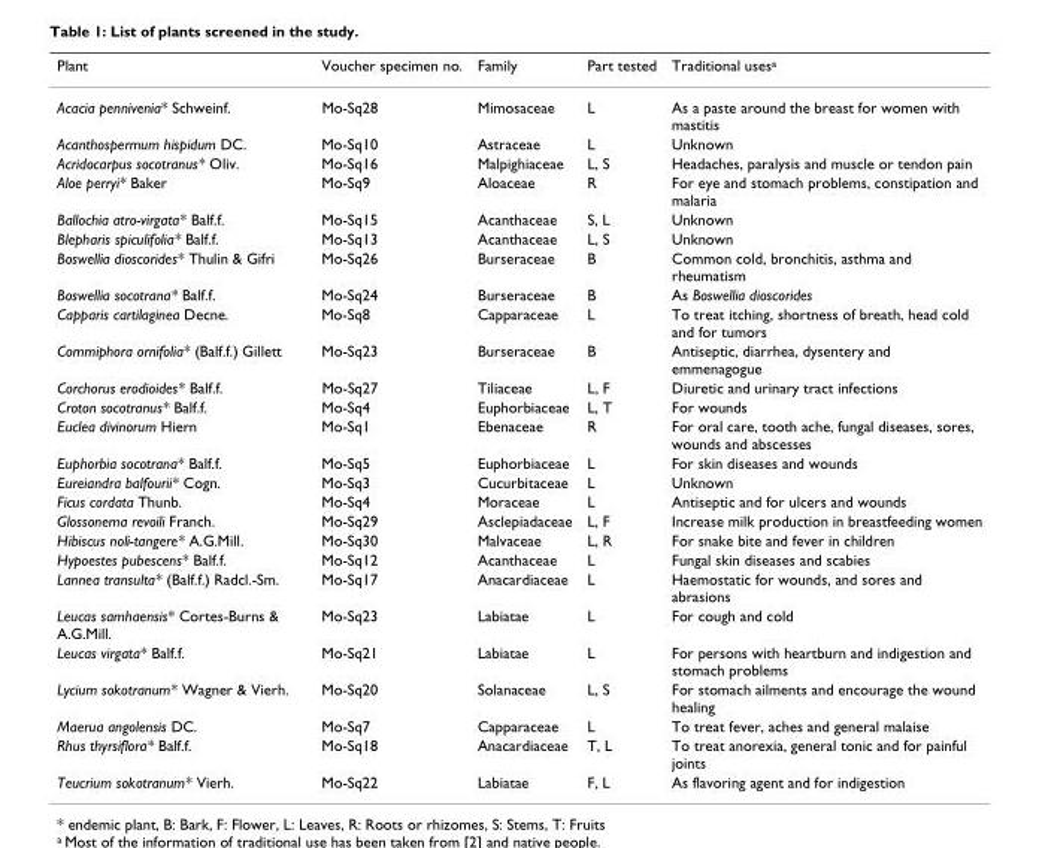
<table><thead><tr><td>Plant</td><td>Voucher specimen no.</td><td>Family</td><td>Part tested</td><td>Traditional uses<sup>a</sup></td></tr></thead><tbody><tr><td>Acacia pennivenia* Schweinf.</td><td>Mo-Sq28</td><td>Mimosaceae</td><td>L</td><td>As a paste around the breast for women with mastitis</td></tr><tr><td>Acanthospermum hispidum DC.</td><td>Mo-Sq10</td><td>Astraceae</td><td>L</td><td>Unknown</td></tr><tr><td>Acridocarpus socotranus* Oliv.</td><td>Mo-Sq16</td><td>Malpighiaceae</td><td>L, S</td><td>Headaches, paralysis and muscle or tendon pain</td></tr><tr><td>Aloe perryi* Baker</td><td>Mo-Sq9</td><td>Aloaceae</td><td>R</td><td>For eye and stomach problems, constipation and malaria</td></tr><tr><td>Ballochia atro-virgata* Balf.f.</td><td>Mo-Sq15</td><td>Acanthaceae</td><td>S, L</td><td>Unknown</td></tr><tr><td>Blepharis spiculifolia* Balf.f.</td><td>Mo-Sq13</td><td>Acanthaceae</td><td>L, S</td><td>Unknown</td></tr><tr><td>Boswellia dioscorides* Thulin &amp; Gifri</td><td>Mo-Sq26</td><td>Burseraceae</td><td>B</td><td>Common cold, bronchitis, asthma and rheumatism</td></tr><tr><td>Boswellia socotrana* Balf.f.</td><td>Mo-Sq24</td><td>Burseraceae</td><td>B</td><td>As Boswellia dioscorides</td></tr><tr><td>Capparis cartilaginea Decne.</td><td>Mo-Sq8</td><td>Capparaceae</td><td>L</td><td>To treat itching, shortness of breath, head cold and for tumors</td></tr><tr><td>Commiphora ornifolia* (Balf.f.) Gillett</td><td>Mo-Sq23</td><td>Burseraceae</td><td>B</td><td>Antiseptic, diarrhea, dysentery and emmenagogue</td></tr><tr><td>Corchorus erodioides* Balf.f.</td><td>Mo-Sq27</td><td>Tiliaceae</td><td>L, F</td><td>Diuretic and urinary tract infections</td></tr><tr><td>Croton socotranus* Balf.f.</td><td>Mo-Sq4</td><td>Euphorbiaceae</td><td>L, T</td><td>For wounds</td></tr><tr><td>Euclea divinorum Hiern</td><td>Mo-Sq1</td><td>Ebenaceae</td><td>R</td><td>For oral care, tooth ache, fungal diseases, sores, wounds and abscesses</td></tr><tr><td>Euphorbia socotrana* Balf.f.</td><td>Mo-Sq5</td><td>Euphorbiaceae</td><td>L</td><td>For skin diseases and wounds</td></tr><tr><td>Eureiandra balfourii* Cogn.</td><td>Mo-Sq3</td><td>Cucurbitaceae</td><td>L</td><td>Unknown</td></tr><tr><td>Ficus cordata Thunb.</td><td>Mo-Sq4</td><td>Moraceae</td><td>L</td><td>Antiseptic and for ulcers and wounds</td></tr><tr><td>Glossonema revoili Franch.</td><td>Mo-Sq29</td><td>Asclepiadaceae</td><td>L, F</td><td>Increase milk production in breastfeeding women</td></tr><tr><td>Hibiscus noli-tangere* A.G.Mill.</td><td>Mo-Sq30</td><td>Malvaceae</td><td>L, R</td><td>For snake bite and fever in children</td></tr><tr><td>Hypoestes pubescens* Balf.f.</td><td>Mo-Sq12</td><td>Acanthaceae</td><td>L</td><td>Fungal skin diseases and scabies</td></tr><tr><td>Lannea transulta* (Balf.f.) Radcl.-Sm.</td><td>Mo-Sq17</td><td>Anacardiaceae</td><td>L</td><td>Haemostatic for wounds, and sores and abrasions</td></tr><tr><td>Leucas samhaensis* Cortes-Burns &amp; A.G.Mill.</td><td>Mo-Sq23</td><td>Labiatae</td><td>L</td><td>For cough and cold</td></tr><tr><td>Leucas virgata* Balf.f.</td><td>Mo-Sq21</td><td>Labiatae</td><td>L</td><td>For persons with heartburn and indigestion and stomach problems</td></tr><tr><td>Lycium sokotranum* Wagner &amp; Vierh.</td><td>Mo-Sq20</td><td>Solanaceae</td><td>L, S</td><td>For stomach ailments and encourage the wound healing</td></tr><tr><td>Maerua angolensis DC.</td><td>Mo-Sq7</td><td>Capparaceae</td><td>L</td><td>To treat fever, aches and general malaise</td></tr><tr><td>Rhus thyrsiflora* Balf.f.</td><td>Mo-Sq18</td><td>Anacardiaceae</td><td>T, L</td><td>To treat anorexia, general tonic and for painful joints</td></tr><tr><td>Teucrium sokotranum* Vierh.</td><td>Mo-Sq22</td><td>Labiatae</td><td>F, L</td><td>As flavoring agent and for indigestion</td></tr></tbody></table>